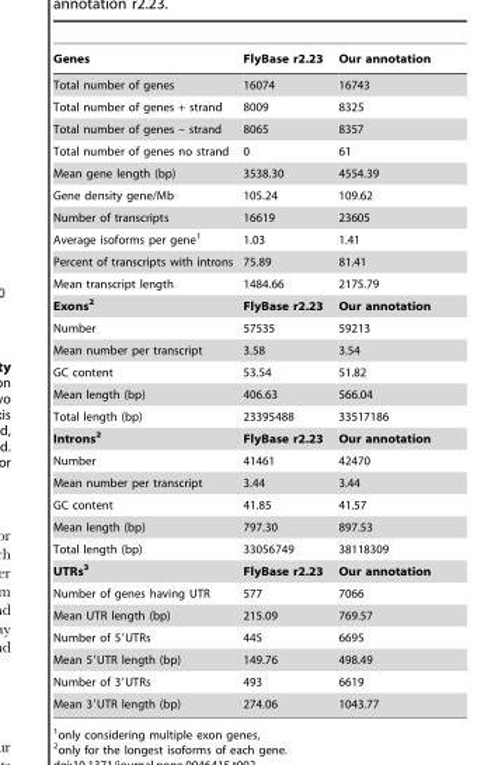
<table><thead><tr><td>Genes</td><td>FlyBase r2.23</td><td>Our annotation</td></tr></thead><tbody><tr><td>Total number of genes</td><td>16074</td><td>16743</td></tr><tr><td>Total number of genes + strand</td><td>8009</td><td>8325</td></tr><tr><td>Total number of genes – strand</td><td>8065</td><td>8357</td></tr><tr><td>Total number of genes no strand</td><td>0</td><td>61</td></tr><tr><td>Mean gene length (bp)</td><td>3538.30</td><td>4554.39</td></tr><tr><td>Gene density gene/Mb</td><td>105.24</td><td>109.62</td></tr><tr><td>Number of transcripts</td><td>16619</td><td>23605</td></tr><tr><td>Average isoforms per gene<sup>1</sup></td><td>1.03</td><td>1.41</td></tr><tr><td>Percent of transcripts with introns</td><td>75.89</td><td>81.41</td></tr><tr><td>Mean transcript length</td><td>1484.66</td><td>2175.79</td></tr><tr><td>Exons2</td><td>FlyBase r2.23</td><td>Our annotation</td></tr><tr><td>Number</td><td>57535</td><td>59213</td></tr><tr><td>Mean number per transcript</td><td>3.58</td><td>3.54</td></tr><tr><td>GC content</td><td>53.54</td><td>51.82</td></tr><tr><td>Mean length (bp)</td><td>406.63</td><td>566.04</td></tr><tr><td>Total length (bp)</td><td>23395488</td><td>33517186</td></tr><tr><td>Introns2</td><td>FlyBase r2.23</td><td>Our annotation</td></tr><tr><td>Number</td><td>41461</td><td>42470</td></tr><tr><td>Mean number per transcript</td><td>3.44</td><td>3.44</td></tr><tr><td>GC content</td><td>41.85</td><td>41.57</td></tr><tr><td>Mean length (bp)</td><td>797.30</td><td>897.53</td></tr><tr><td>Total length (bp)</td><td>33056749</td><td>38118309</td></tr><tr><td>UTRs<sup>3</sup></td><td>FlyBase r2.23</td><td>Our annotation</td></tr><tr><td>Number of genes having UTR</td><td>577</td><td>7066</td></tr><tr><td>Mean UTR length (bp)</td><td>215.09</td><td>769.57</td></tr><tr><td>Number of 5′UTRs</td><td>445</td><td>6695</td></tr><tr><td>Mean 5′UTR length (bp)</td><td>149.76</td><td>498.49</td></tr><tr><td>Number of 3′UTRs</td><td>493</td><td>6619</td></tr><tr><td>Mean 3′UTR length (bp)</td><td>274.06</td><td>1043.77</td></tr></tbody></table>